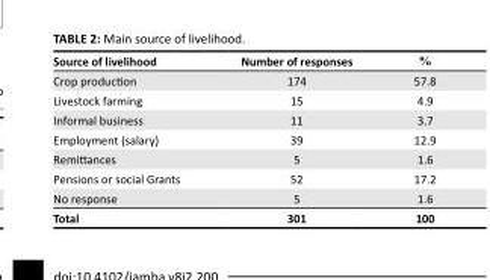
<table><thead><tr><td>Source of livelihood</td><td>Number of responses</td><td>%</td></tr></thead><tbody><tr><td>Crop production</td><td>174</td><td>57.8</td></tr><tr><td>Livestock farming</td><td>15</td><td>4.9</td></tr><tr><td>Informal business</td><td>11</td><td>3.7</td></tr><tr><td>Employment (salary)</td><td>39</td><td>12.9</td></tr><tr><td>Remittances</td><td>5</td><td>1.6</td></tr><tr><td>Pensions or social Grants</td><td>52</td><td>17.2</td></tr><tr><td>No response</td><td>5</td><td>1.6</td></tr><tr><td>Total</td><td>301</td><td>100</td></tr></tbody></table>